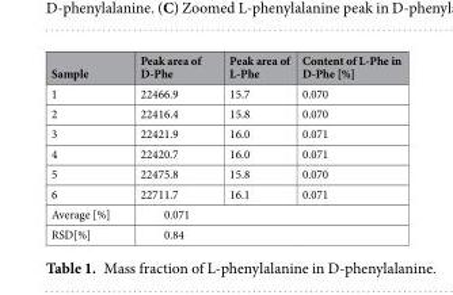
<table><thead><tr><td>Sample</td><td>Peak area of D-Phe</td><td>Peak area of L-Phe</td><td>Content of L-Phe in D-Phe [%]</td></tr></thead><tbody><tr><td>1</td><td>22466.9</td><td>15.7</td><td>0.070</td></tr><tr><td>2</td><td>22416.4</td><td>15.8</td><td>0.070</td></tr><tr><td>3</td><td>22421.9</td><td>16.0</td><td>0.071</td></tr><tr><td>4</td><td>22420.7</td><td>16.0</td><td>0.071</td></tr><tr><td>5</td><td>22475.8</td><td>15.8</td><td>0.070</td></tr><tr><td>6</td><td>22711.7</td><td>16.1</td><td>0.071</td></tr><tr><td>Average [%]</td><td colspan="3">0.071</td></tr><tr><td>RSD[%]</td><td colspan="3">0.84</td></tr></tbody></table>